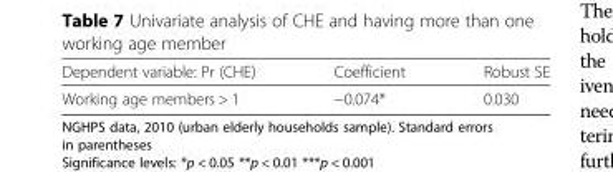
<table><thead><tr><td>Dependent variable: Pr (CHE)</td><td>Coefficient</td><td>Robust SE</td></tr></thead><tbody><tr><td>Working age members &gt; 1</td><td>−0.074*</td><td>0.030</td></tr></tbody></table>